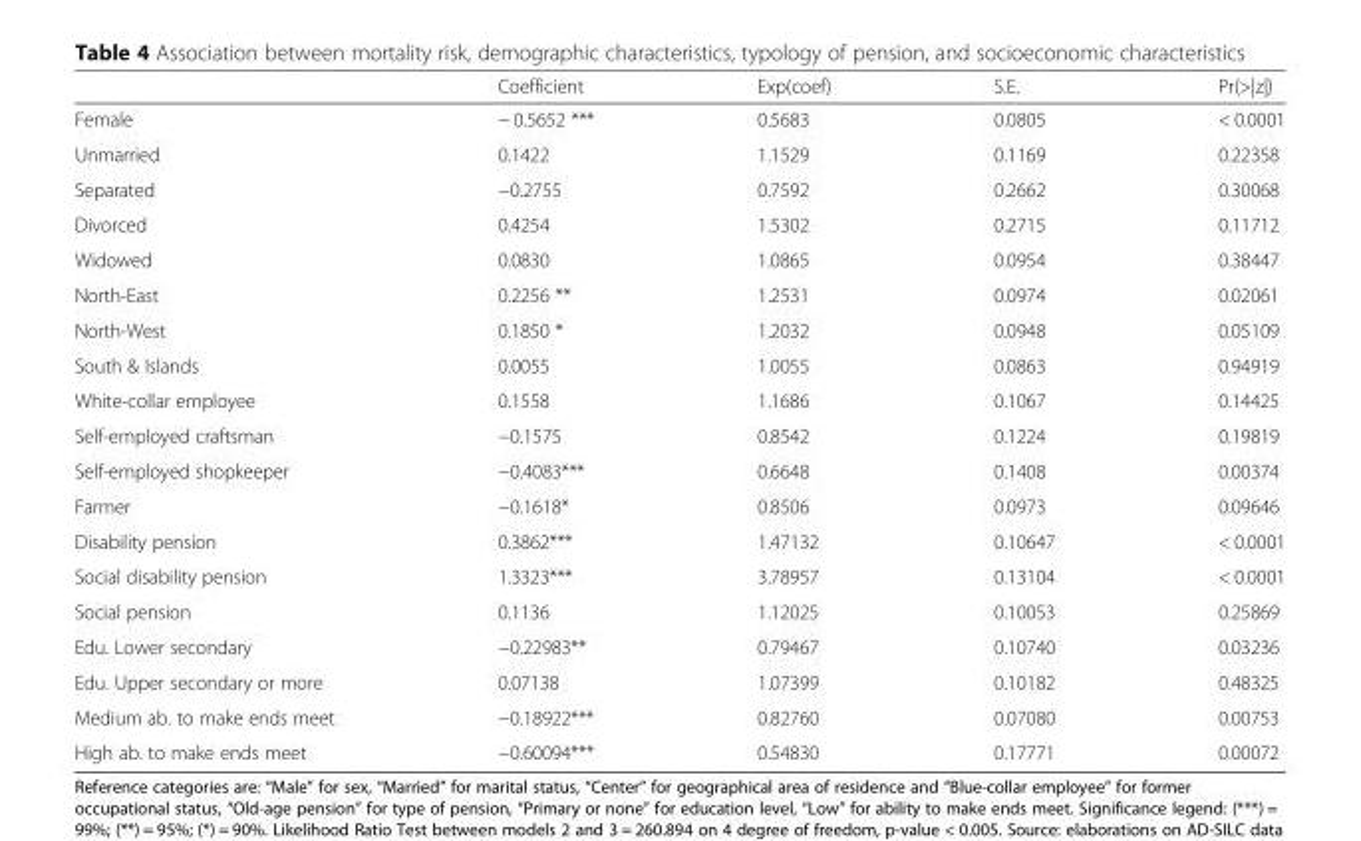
<table><thead><tr><td></td><td>Coefficient</td><td>Exp(coef)</td><td>S.E.</td><td>Pr(&gt;|z|)</td></tr></thead><tbody><tr><td>Female</td><td>− 0.5652 ***</td><td>0.5683</td><td>0.0805</td><td>&lt; 0.0001</td></tr><tr><td>Unmarried</td><td>0.1422</td><td>1.1529</td><td>0.1169</td><td>0.22358</td></tr><tr><td>Separated</td><td>−0.2755</td><td>0.7592</td><td>0.2662</td><td>0.30068</td></tr><tr><td>Divorced</td><td>0.4254</td><td>1.5302</td><td>0.2715</td><td>0.11712</td></tr><tr><td>Widowed</td><td>0.0830</td><td>1.0865</td><td>0.0954</td><td>0.38447</td></tr><tr><td>North-East</td><td>0.2256 **</td><td>1.2531</td><td>0.0974</td><td>0.02061</td></tr><tr><td>North-West</td><td>0.1850 *</td><td>1.2032</td><td>0.0948</td><td>0.05109</td></tr><tr><td>South &amp; Islands</td><td>0.0055</td><td>1.0055</td><td>0.0863</td><td>0.94919</td></tr><tr><td>White-collar employee</td><td>0.1558</td><td>1.1686</td><td>0.1067</td><td>0.14425</td></tr><tr><td>Self-employed craftsman</td><td>−0.1575</td><td>0.8542</td><td>0.1224</td><td>0.19819</td></tr><tr><td>Self-employed shopkeeper</td><td>−0.4083***</td><td>0.6648</td><td>0.1408</td><td>0.00374</td></tr><tr><td>Farmer</td><td>−0.1618*</td><td>0.8506</td><td>0.0973</td><td>0.09646</td></tr><tr><td>Disability pension</td><td>0.3862***</td><td>1.47132</td><td>0.10647</td><td>&lt; 0.0001</td></tr><tr><td>Social disability pension</td><td>1.3323***</td><td>3.78957</td><td>0.13104</td><td>&lt; 0.0001</td></tr><tr><td>Social pension</td><td>0.1136</td><td>1.12025</td><td>0.10053</td><td>0.25869</td></tr><tr><td>Edu. Lower secondary</td><td>−0.22983**</td><td>0.79467</td><td>0.10740</td><td>0.03236</td></tr><tr><td>Edu. Upper secondary or more</td><td>0.07138</td><td>1.07399</td><td>0.10182</td><td>0.48325</td></tr><tr><td>Medium ab. to make ends meet</td><td>−0.18922***</td><td>0.82760</td><td>0.07080</td><td>0.00753</td></tr><tr><td>High ab. to make ends meet</td><td>−0.60094***</td><td>0.54830</td><td>0.17771</td><td>0.00072</td></tr></tbody></table>